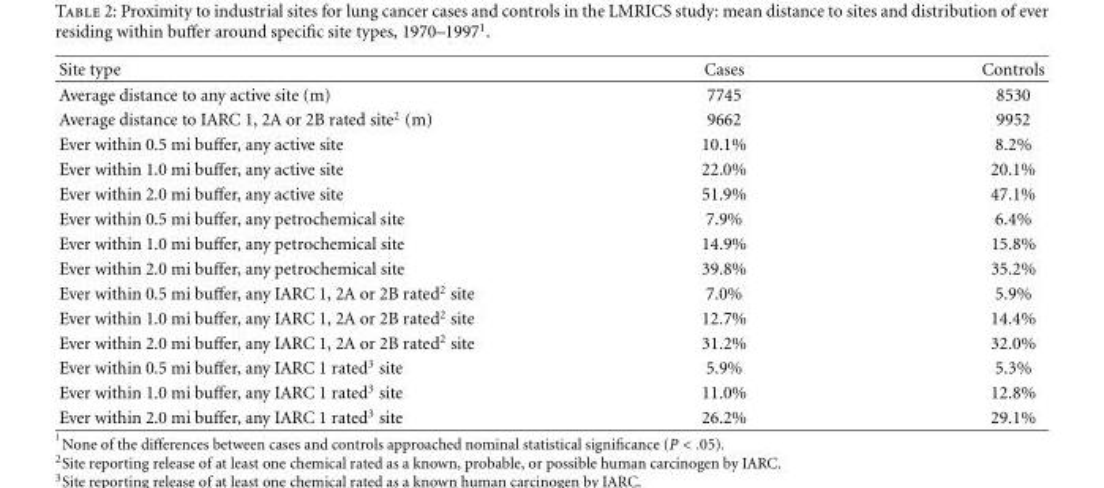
<table><thead><tr><td>Site type</td><td>Cases</td><td>Controls</td></tr></thead><tbody><tr><td>Average distance to any active site (m)</td><td>7745</td><td>8530</td></tr><tr><td>Average distance to IARC 1, 2A or 2B rated site<sup>2</sup> (m)</td><td>9662</td><td>9952</td></tr><tr><td>Ever within 0.5 mi buffer, any active site</td><td>10.1%</td><td>8.2%</td></tr><tr><td>Ever within 1.0 mi buffer, any active site</td><td>22.0%</td><td>20.1%</td></tr><tr><td>Ever within 2.0 mi buffer, any active site</td><td>51.9%</td><td>47.1%</td></tr><tr><td>Ever within 0.5 mi buffer, any petrochemical site</td><td>7.9%</td><td>6.4%</td></tr><tr><td>Ever within 1.0 mi buffer, any petrochemical site</td><td>14.9%</td><td>15.8%</td></tr><tr><td>Ever within 2.0 mi buffer, any petrochemical site</td><td>39.8%</td><td>35.2%</td></tr><tr><td>Ever within 0.5 mi buffer, any IARC 1, 2A or 2B rated<sup>2</sup> site</td><td>7.0%</td><td>5.9%</td></tr><tr><td>Ever within 1.0 mi buffer, any IARC 1, 2A or 2B rated<sup>2</sup> site</td><td>12.7%</td><td>14.4%</td></tr><tr><td>Ever within 2.0 mi buffer, any IARC 1, 2A or 2B rated<sup>2</sup> site</td><td>31.2%</td><td>32.0%</td></tr><tr><td>Ever within 0.5 mi buffer, any IARC 1 rated<sup>3</sup> site</td><td>5.9%</td><td>5.3%</td></tr><tr><td>Ever within 1.0 mi buffer, any IARC 1 rated<sup>3</sup> site</td><td>11.0%</td><td>12.8%</td></tr><tr><td>Ever within 2.0 mi buffer, any IARC 1 rated<sup>3</sup> site</td><td>26.2%</td><td>29.1%</td></tr></tbody></table>